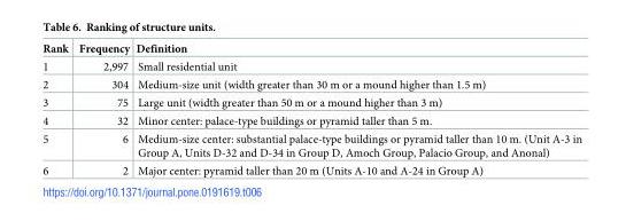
<table><thead><tr><td>Rank</td><td>Frequency</td><td>Definition</td></tr></thead><tbody><tr><td>1</td><td>2,997</td><td>Small residential unit</td></tr><tr><td>2</td><td>304</td><td>Medium-size unit (width greater than 30 m or a mound higher than 1.5 m)</td></tr><tr><td>3</td><td>75</td><td>Large unit (width greater than 50 m or a mound higher than 3 m)</td></tr><tr><td>4</td><td>32</td><td>Minor center: palace-type buildings or pyramid taller than 5 m.</td></tr><tr><td>5</td><td>6</td><td>Medium-size center: substantial palace-type buildings or pyramid taller than 10 m. (Unit A-3 in Group A, Units D-32 and D-34 in Group D, Amoch Group, Palacio Group, and Anonal)</td></tr><tr><td>6</td><td>2</td><td>Major center: pyramid taller than 20 m (Units A-10 and A-24 in Group A)</td></tr></tbody></table>